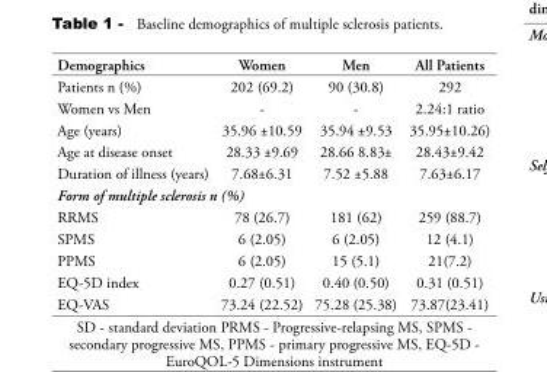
<table><thead><tr><td>Demographics</td><td>Women</td><td>Men</td><td>All Patients</td></tr></thead><tbody><tr><td>Patients n (%)</td><td>202 (69.2)</td><td>90 (30.8)</td><td>292</td></tr><tr><td>Women vs Men</td><td>-</td><td>-</td><td>2.24:1 ratio</td></tr><tr><td>Age (years)</td><td>35.96 ±10.59</td><td>35.94 ±9.53</td><td>35.95±10.26)</td></tr><tr><td>Age at disease onset</td><td>28.33 ±9.69</td><td>28.66 8.83±</td><td>28.43±9.42</td></tr><tr><td>Duration of illness (years)</td><td>7.68±6.31</td><td>7.52 ±5.88</td><td>7.63±6.17</td></tr><tr><td colspan="4">Form of multiple sclerosis n (%)</td></tr><tr><td>RRMS</td><td>78 (26.7)</td><td>181 (62)</td><td>259 (88.7)</td></tr><tr><td>SPMS</td><td>6 (2.05)</td><td>6 (2.05)</td><td>12 (4.1)</td></tr><tr><td>PPMS</td><td>6 (2.05)</td><td>15 (5.1)</td><td>21(7.2)</td></tr><tr><td>EQ-5D index</td><td>0.27 (0.51)</td><td>0.40 (0.50)</td><td>0.31 (0.51)</td></tr><tr><td>EQ-VAS</td><td>73.24 (22.52)</td><td>75.28 (25.38)</td><td>73.87(23.41)</td></tr></tbody></table>